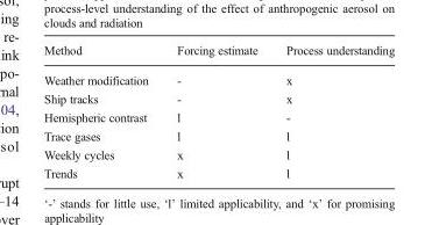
<table><thead><tr><td>Method</td><td>Forcing estimate</td><td>Process understanding</td></tr></thead><tbody><tr><td>Weather modification</td><td>-</td><td>x</td></tr><tr><td>Ship tracks</td><td>-</td><td>x</td></tr><tr><td>Hemispheric contrast</td><td>l</td><td>-</td></tr><tr><td>Trace gases</td><td>l</td><td>l</td></tr><tr><td>Weekly cycles</td><td>x</td><td>l</td></tr><tr><td>Trends</td><td>x</td><td>l</td></tr></tbody></table>